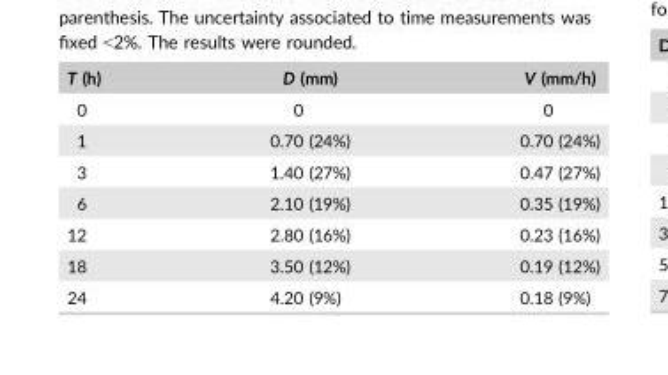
<table><thead><tr><td>T (h)</td><td>D (mm)</td><td>V (mm/h)</td></tr></thead><tbody><tr><td>0</td><td>0</td><td>0</td></tr><tr><td>1</td><td>0.70 (24%)</td><td>0.70 (24%)</td></tr><tr><td>3</td><td>1.40 (27%)</td><td>0.47 (27%)</td></tr><tr><td>6</td><td>2.10 (19%)</td><td>0.35 (19%)</td></tr><tr><td>12</td><td>2.80 (16%)</td><td>0.23 (16%)</td></tr><tr><td>18</td><td>3.50 (12%)</td><td>0.19 (12%)</td></tr><tr><td>24</td><td>4.20 (9%)</td><td>0.18 (9%)</td></tr></tbody></table>